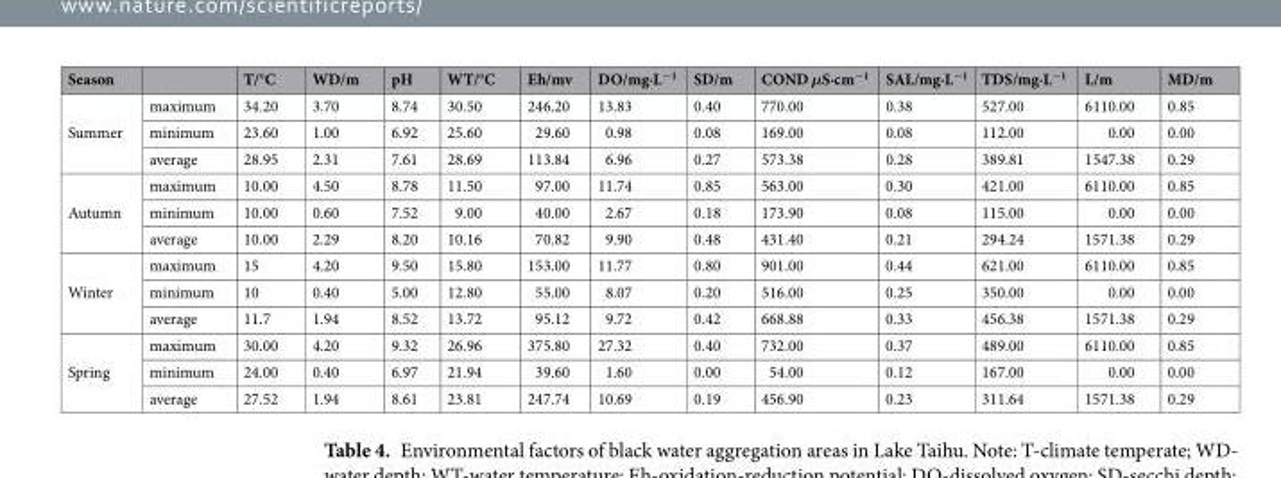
<table><thead><tr><td>Season</td><td></td><td>T/°C</td><td>WD/m</td><td>pH</td><td>WT/°C</td><td>Eh/mv</td><td>DO/mg·L<sup>−1</sup></td><td>SD/m</td><td>COND μS·cm<sup>−1</sup></td><td>SAL/mg·L<sup>−1</sup></td><td>TDS/mg·L<sup>−1</sup></td><td>L/m</td><td>MD/m</td></tr></thead><tbody><tr><td rowspan="3">Summer</td><td>maximum</td><td>34.20</td><td>3.70</td><td>8.74</td><td>30.50</td><td>246.20</td><td>13.83</td><td>0.40</td><td>770.00</td><td>0.38</td><td>527.00</td><td>6110.00</td><td>0.85</td></tr><tr><td>minimum</td><td>23.60</td><td>1.00</td><td>6.92</td><td>25.60</td><td>29.60</td><td>0.98</td><td>0.08</td><td>169.00</td><td>0.08</td><td>112.00</td><td>0.00</td><td>0.00</td></tr><tr><td>average</td><td>28.95</td><td>2.31</td><td>7.61</td><td>28.69</td><td>113.84</td><td>6.96</td><td>0.27</td><td>573.38</td><td>0.28</td><td>389.81</td><td>1547.38</td><td>0.29</td></tr><tr><td rowspan="3">Autumn</td><td>maximum</td><td>10.00</td><td>4.50</td><td>8.78</td><td>11.50</td><td>97.00</td><td>11.74</td><td>0.85</td><td>563.00</td><td>0.30</td><td>421.00</td><td>6110.00</td><td>0.85</td></tr><tr><td>minimum</td><td>10.00</td><td>0.60</td><td>7.52</td><td>9.00</td><td>40.00</td><td>2.67</td><td>0.18</td><td>173.90</td><td>0.08</td><td>115.00</td><td>0.00</td><td>0.00</td></tr><tr><td>average</td><td>10.00</td><td>2.29</td><td>8.20</td><td>10.16</td><td>70.82</td><td>9.90</td><td>0.48</td><td>431.40</td><td>0.21</td><td>294.24</td><td>1571.38</td><td>0.29</td></tr><tr><td rowspan="3">Winter</td><td>maximum</td><td>15</td><td>4.20</td><td>9.50</td><td>15.80</td><td>153.00</td><td>11.77</td><td>0.80</td><td>901.00</td><td>0.44</td><td>621.00</td><td>6110.00</td><td>0.85</td></tr><tr><td>minimum</td><td>10</td><td>0.40</td><td>5.00</td><td>12.80</td><td>55.00</td><td>8.07</td><td>0.20</td><td>516.00</td><td>0.25</td><td>350.00</td><td>0.00</td><td>0.00</td></tr><tr><td>average</td><td>11.7</td><td>1.94</td><td>8.52</td><td>13.72</td><td>95.12</td><td>9.72</td><td>0.42</td><td>668.88</td><td>0.33</td><td>456.38</td><td>1571.38</td><td>0.29</td></tr><tr><td rowspan="3">Spring</td><td>maximum</td><td>30.00</td><td>4.20</td><td>9.32</td><td>26.96</td><td>375.80</td><td>27.32</td><td>0.40</td><td>732.00</td><td>0.37</td><td>489.00</td><td>6110.00</td><td>0.85</td></tr><tr><td>minimum</td><td>24.00</td><td>0.40</td><td>6.97</td><td>21.94</td><td>39.60</td><td>1.60</td><td>0.00</td><td>54.00</td><td>0.12</td><td>167.00</td><td>0.00</td><td>0.00</td></tr><tr><td>average</td><td>27.52</td><td>1.94</td><td>8.61</td><td>23.81</td><td>247.74</td><td>10.69</td><td>0.19</td><td>456.90</td><td>0.23</td><td>311.64</td><td>1571.38</td><td>0.29</td></tr></tbody></table>